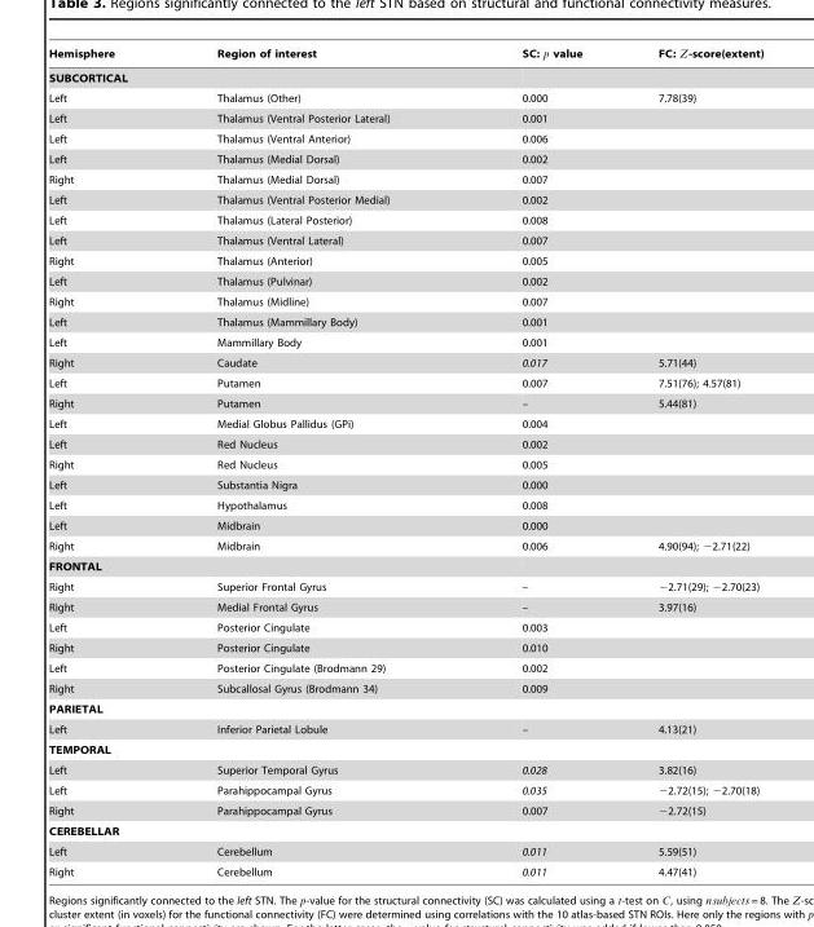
<table><thead><tr><td>Hemisphere</td><td>Region of interest</td><td>SC: p value</td><td>FC: Z-score(extent)</td></tr></thead><tbody><tr><td colspan="4">SUBCORTICAL</td></tr><tr><td>Left</td><td>Thalamus (Other)</td><td>0.000</td><td>7.78(39)</td></tr><tr><td>Left</td><td>Thalamus (Ventral Posterior Lateral)</td><td>0.001</td><td></td></tr><tr><td>Left</td><td>Thalamus (Ventral Anterior)</td><td>0.006</td><td></td></tr><tr><td>Left</td><td>Thalamus (Medial Dorsal)</td><td>0.002</td><td></td></tr><tr><td>Right</td><td>Thalamus (Medial Dorsal)</td><td>0.007</td><td></td></tr><tr><td>Left</td><td>Thalamus (Ventral Posterior Medial)</td><td>0.002</td><td></td></tr><tr><td>Left</td><td>Thalamus (Lateral Posterior)</td><td>0.008</td><td></td></tr><tr><td>Left</td><td>Thalamus (Ventral Lateral)</td><td>0.007</td><td></td></tr><tr><td>Right</td><td>Thalamus (Anterior)</td><td>0.005</td><td></td></tr><tr><td>Left</td><td>Thalamus (Pulvinar)</td><td>0.002</td><td></td></tr><tr><td>Right</td><td>Thalamus (Midline)</td><td>0.007</td><td></td></tr><tr><td>Left</td><td>Thalamus (Mammillary Body)</td><td>0.001</td><td></td></tr><tr><td>Left</td><td>Mammillary Body</td><td>0.001</td><td></td></tr><tr><td>Right</td><td>Caudate</td><td>0.017</td><td>5.71(44)</td></tr><tr><td>Left</td><td>Putamen</td><td>0.007</td><td>7.51(76); 4.57(81)</td></tr><tr><td>Right</td><td>Putamen</td><td>–</td><td>5.44(81)</td></tr><tr><td>Left</td><td>Medial Globus Pallidus (GPi)</td><td>0.004</td><td></td></tr><tr><td>Left</td><td>Red Nucleus</td><td>0.002</td><td></td></tr><tr><td>Right</td><td>Red Nucleus</td><td>0.005</td><td></td></tr><tr><td>Left</td><td>Substantia Nigra</td><td>0.000</td><td></td></tr><tr><td>Left</td><td>Hypothalamus</td><td>0.008</td><td></td></tr><tr><td>Left</td><td>Midbrain</td><td>0.000</td><td></td></tr><tr><td>Right</td><td>Midbrain</td><td>0.006</td><td>4.90(94); −2.71(22)</td></tr><tr><td colspan="4">FRONTAL</td></tr><tr><td>Right</td><td>Superior Frontal Gyrus</td><td>–</td><td>−2.71(29); −2.70(23)</td></tr><tr><td>Right</td><td>Medial Frontal Gyrus</td><td>–</td><td>3.97(16)</td></tr><tr><td>Left</td><td>Posterior Cingulate</td><td>0.003</td><td></td></tr><tr><td>Right</td><td>Posterior Cingulate</td><td>0.010</td><td></td></tr><tr><td>Left</td><td>Posterior Cingulate (Brodmann 29)</td><td>0.002</td><td></td></tr><tr><td>Right</td><td>Subcallosal Gyrus (Brodmann 34)</td><td>0.009</td><td></td></tr><tr><td colspan="4">PARIETAL</td></tr><tr><td>Left</td><td>Inferior Parietal Lobule</td><td>–</td><td>4.13(21)</td></tr><tr><td colspan="4">TEMPORAL</td></tr><tr><td>Left</td><td>Superior Temporal Gyrus</td><td>0.028</td><td>3.82(16)</td></tr><tr><td>Left</td><td>Parahippocampal Gyrus</td><td>0.035</td><td>−2.72(15); −2.70(18)</td></tr><tr><td>Right</td><td>Parahippocampal Gyrus</td><td>0.007</td><td>−2.72(15)</td></tr><tr><td colspan="4">CEREBELLAR</td></tr><tr><td>Left</td><td>Cerebellum</td><td>0.011</td><td>5.59(51)</td></tr><tr><td>Right</td><td>Cerebellum</td><td>0.011</td><td>4.47(41)</td></tr></tbody></table>